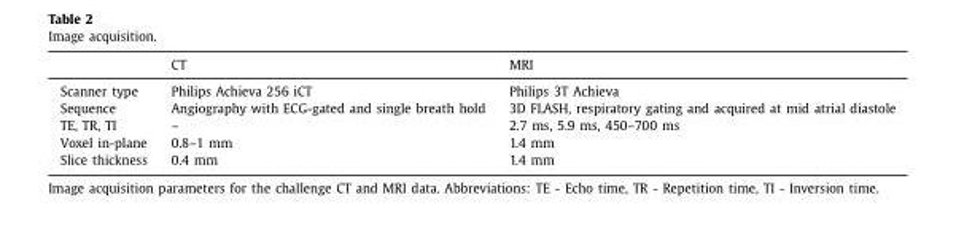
<table><thead><tr><td></td><td>CT</td><td>MRI</td></tr></thead><tbody><tr><td>Scanner type</td><td>Philips Achieva 256 iCT</td><td>Philips 3T Achieva</td></tr><tr><td>Sequence</td><td>Angiography with ECG-gated and single breath hold</td><td>3D FLASH, respiratory gating and acquired at mid atrial diastole</td></tr><tr><td>TE, TR, TI</td><td>–</td><td>2.7 ms, 5.9 ms, 450–700 ms</td></tr><tr><td>Voxel in-plane</td><td>0.8–1 mm</td><td>1.4 mm</td></tr><tr><td>Slice thickness</td><td>0.4 mm</td><td>1.4 mm</td></tr></tbody></table>